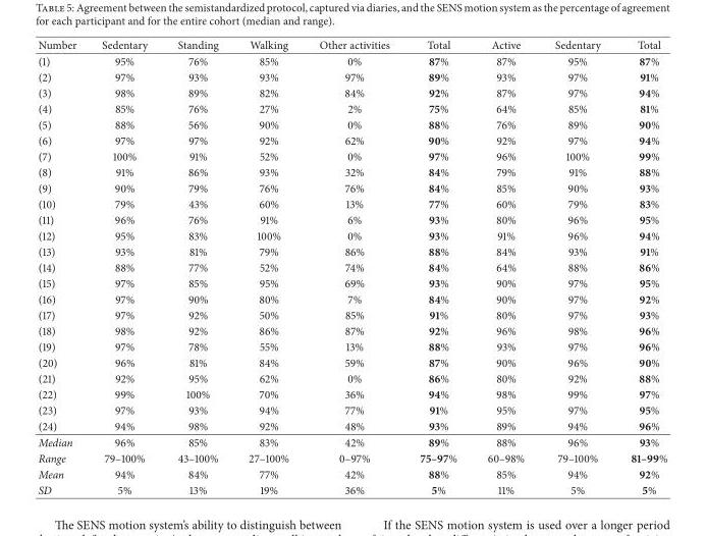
<table><thead><tr><td>Number</td><td>Sedentary</td><td>Standing</td><td>Walking</td><td>Other activities</td><td>Total</td><td>Active</td><td>Sedentary</td><td>Total</td></tr></thead><tbody><tr><td>(1)</td><td>95%</td><td>76%</td><td>85%</td><td>0%</td><td>87%</td><td>87%</td><td>95%</td><td>87%</td></tr><tr><td>(2)</td><td>97%</td><td>93%</td><td>93%</td><td>97%</td><td>89%</td><td>93%</td><td>97%</td><td>91%</td></tr><tr><td>(3)</td><td>98%</td><td>89%</td><td>82%</td><td>84%</td><td>92%</td><td>87%</td><td>97%</td><td>94%</td></tr><tr><td>(4)</td><td>85%</td><td>76%</td><td>27%</td><td>2%</td><td>75%</td><td>64%</td><td>85%</td><td>81%</td></tr><tr><td>(5)</td><td>88%</td><td>56%</td><td>90%</td><td>0%</td><td>88%</td><td>76%</td><td>89%</td><td>90%</td></tr><tr><td>(6)</td><td>97%</td><td>97%</td><td>92%</td><td>62%</td><td>90%</td><td>92%</td><td>97%</td><td>94%</td></tr><tr><td>(7)</td><td>100%</td><td>91%</td><td>52%</td><td>0%</td><td>97%</td><td>96%</td><td>100%</td><td>99%</td></tr><tr><td>(8)</td><td>91%</td><td>86%</td><td>93%</td><td>32%</td><td>84%</td><td>79%</td><td>91%</td><td>88%</td></tr><tr><td>(9)</td><td>90%</td><td>79%</td><td>76%</td><td>76%</td><td>84%</td><td>85%</td><td>90%</td><td>93%</td></tr><tr><td>(10)</td><td>79%</td><td>43%</td><td>60%</td><td>13%</td><td>77%</td><td>60%</td><td>79%</td><td>83%</td></tr><tr><td>(11)</td><td>96%</td><td>76%</td><td>91%</td><td>6%</td><td>93%</td><td>80%</td><td>96%</td><td>95%</td></tr><tr><td>(12)</td><td>95%</td><td>83%</td><td>100%</td><td>0%</td><td>93%</td><td>91%</td><td>96%</td><td>94%</td></tr><tr><td>(13)</td><td>93%</td><td>81%</td><td>79%</td><td>86%</td><td>88%</td><td>84%</td><td>93%</td><td>91%</td></tr><tr><td>(14)</td><td>88%</td><td>77%</td><td>52%</td><td>74%</td><td>84%</td><td>64%</td><td>88%</td><td>86%</td></tr><tr><td>(15)</td><td>97%</td><td>85%</td><td>95%</td><td>69%</td><td>93%</td><td>90%</td><td>97%</td><td>95%</td></tr><tr><td>(16)</td><td>97%</td><td>90%</td><td>80%</td><td>7%</td><td>84%</td><td>90%</td><td>97%</td><td>92%</td></tr><tr><td>(17)</td><td>97%</td><td>92%</td><td>50%</td><td>85%</td><td>91%</td><td>80%</td><td>97%</td><td>93%</td></tr><tr><td>(18)</td><td>98%</td><td>92%</td><td>86%</td><td>87%</td><td>92%</td><td>96%</td><td>98%</td><td>96%</td></tr><tr><td>(19)</td><td>97%</td><td>78%</td><td>55%</td><td>13%</td><td>88%</td><td>93%</td><td>97%</td><td>96%</td></tr><tr><td>(20)</td><td>96%</td><td>81%</td><td>84%</td><td>59%</td><td>87%</td><td>90%</td><td>96%</td><td>90%</td></tr><tr><td>(21)</td><td>92%</td><td>95%</td><td>62%</td><td>0%</td><td>86%</td><td>80%</td><td>92%</td><td>88%</td></tr><tr><td>(22)</td><td>99%</td><td>100%</td><td>70%</td><td>36%</td><td>94%</td><td>98%</td><td>99%</td><td>97%</td></tr><tr><td>(23)</td><td>97%</td><td>93%</td><td>94%</td><td>77%</td><td>91%</td><td>95%</td><td>97%</td><td>95%</td></tr><tr><td>(24)</td><td>94%</td><td>98%</td><td>92%</td><td>48%</td><td>93%</td><td>89%</td><td>94%</td><td>96%</td></tr><tr><td>Median</td><td>96%</td><td>85%</td><td>83%</td><td>42%</td><td>89%</td><td>88%</td><td>96%</td><td>93%</td></tr><tr><td>Range</td><td>79–100%</td><td>43–100%</td><td>27–100%</td><td>0–97%</td><td>75–97%</td><td>60–98%</td><td>79–100%</td><td>81–99%</td></tr><tr><td>Mean</td><td>94%</td><td>84%</td><td>77%</td><td>42%</td><td>88%</td><td>85%</td><td>94%</td><td>92%</td></tr><tr><td>SD</td><td>5%</td><td>13%</td><td>19%</td><td>36%</td><td>5%</td><td>11%</td><td>5%</td><td>5%</td></tr></tbody></table>